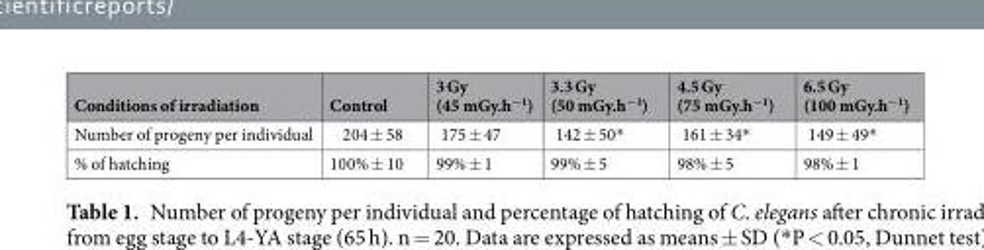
<table><thead><tr><td>Conditions of irradiation</td><td>Control</td><td>3 Gy (45 mGy.h<sup>−1</sup>)</td><td>3.3 Gy (50 mGy.h<sup>−1</sup>)</td><td>4.5 Gy (75 mGy.h<sup>−1</sup>)</td><td>6.5 Gy (100 mGy.h<sup>−1</sup>)</td></tr></thead><tbody><tr><td>Number of progeny per individual</td><td>204 ± 58</td><td>175 ± 47</td><td>142 ± 50*</td><td>161 ± 34*</td><td>149 ± 49*</td></tr><tr><td>% of hatching</td><td>100% ± 10</td><td>99% ± 1</td><td>99% ± 5</td><td>98% ± 5</td><td>98% ± 1</td></tr></tbody></table>